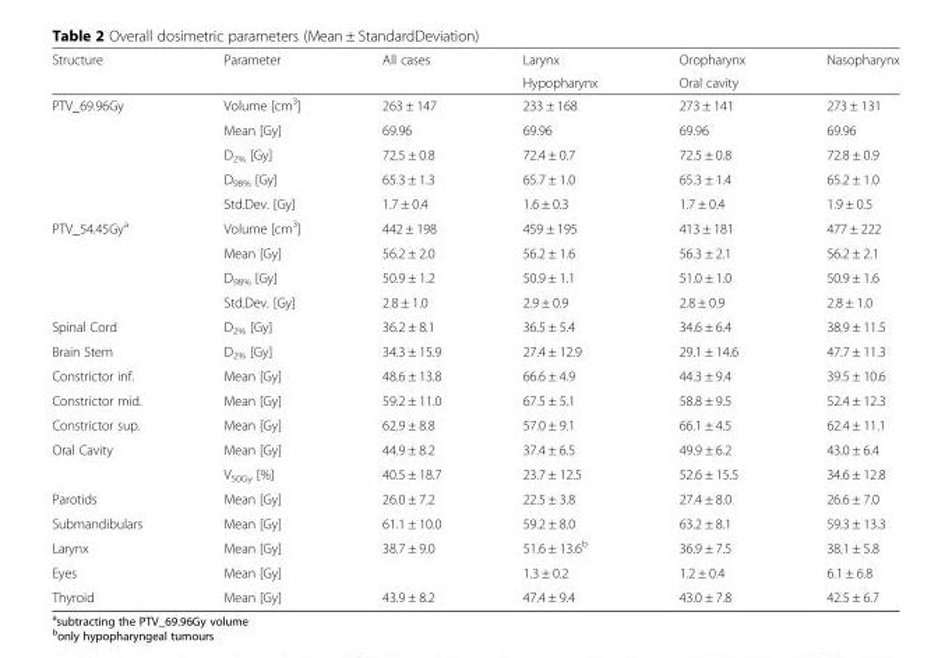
<table><thead><tr><td rowspan="2">Structure</td><td rowspan="2">Parameter</td><td rowspan="2">All cases</td><td rowspan="2">Larynx Hypopharynx</td><td rowspan="2">Oropharynx Oral cavity</td><td rowspan="2">Nasopharynx</td></tr><tr></tr></thead><tbody><tr><td rowspan="5">PTV_69.96Gy</td><td>Volume [cm<sup>3</sup>]</td><td>263 ± 147</td><td>233 ± 168</td><td>273 ± 141</td><td>273 ± 131</td></tr><tr><td>Mean [Gy]</td><td>69.96</td><td>69.96</td><td>69.96</td><td>69.96</td></tr><tr><td>D<sub>2%</sub> [Gy]</td><td>72.5 ± 0.8</td><td>72.4 ± 0.7</td><td>72.5 ± 0.8</td><td>72.8 ± 0.9</td></tr><tr><td>D<sub>98%</sub> [Gy]</td><td>65.3 ± 1.3</td><td>65.7 ± 1.0</td><td>65.3 ± 1.4</td><td>65.2 ± 1.0</td></tr><tr><td>Std.Dev. [Gy]</td><td>1.7 ± 0.4</td><td>1.6 ± 0.3</td><td>1.7 ± 0.4</td><td>1.9 ± 0.5</td></tr><tr><td rowspan="4">PTV_54.45Gy<sup>a</sup></td><td>Volume [cm<sup>3</sup>]</td><td>442 ± 198</td><td>459 ± 195</td><td>413 ± 181</td><td>477 ± 222</td></tr><tr><td>Mean [Gy]</td><td>56.2 ± 2.0</td><td>56.2 ± 1.6</td><td>56.3 ± 2.1</td><td>56.2 ± 2.1</td></tr><tr><td>D<sub>98%</sub> [Gy]</td><td>50.9 ± 1.2</td><td>50.9 ± 1.1</td><td>51.0 ± 1.0</td><td>50.9 ± 1.6</td></tr><tr><td>Std.Dev. [Gy]</td><td>2.8 ± 1.0</td><td>2.9 ± 0.9</td><td>2.8 ± 0.9</td><td>2.8 ± 1.0</td></tr><tr><td>Spinal Cord</td><td>D<sub>2%</sub> [Gy]</td><td>36.2 ± 8.1</td><td>36.5 ± 5.4</td><td>34.6 ± 6.4</td><td>38.9 ± 11.5</td></tr><tr><td>Brain Stem</td><td>D<sub>2%</sub> [Gy]</td><td>34.3 ± 15.9</td><td>27.4 ± 12.9</td><td>29.1 ± 14.6</td><td>47.7 ± 11.3</td></tr><tr><td>Constrictor inf.</td><td>Mean [Gy]</td><td>48.6 ± 13.8</td><td>66.6 ± 4.9</td><td>44.3 ± 9.4</td><td>39.5 ± 10.6</td></tr><tr><td>Constrictor mid.</td><td>Mean [Gy]</td><td>59.2 ± 11.0</td><td>67.5 ± 5.1</td><td>58.8 ± 9.5</td><td>52.4 ± 12.3</td></tr><tr><td>Constrictor sup.</td><td>Mean [Gy]</td><td>62.9 ± 8.8</td><td>57.0 ± 9.1</td><td>66.1 ± 4.5</td><td>62.4 ± 11.1</td></tr><tr><td rowspan="2">Oral Cavity</td><td>Mean [Gy]</td><td>44.9 ± 8.2</td><td>37.4 ± 6.5</td><td>49.9 ± 6.2</td><td>43.0 ± 6.4</td></tr><tr><td>V<sub>50Gy</sub> [%]</td><td>40.5 ± 18.7</td><td>23.7 ± 12.5</td><td>52.6 ± 15.5</td><td>34.6 ± 12.8</td></tr><tr><td>Parotids</td><td>Mean [Gy]</td><td>26.0 ± 7.2</td><td>22.5 ± 3.8</td><td>27.4 ± 8.0</td><td>26.6 ± 7.0</td></tr><tr><td>Submandibulars</td><td>Mean [Gy]</td><td>61.1 ± 10.0</td><td>59.2 ± 8.0</td><td>63.2 ± 8.1</td><td>59.3 ± 13.3</td></tr><tr><td>Larynx</td><td>Mean [Gy]</td><td>38.7 ± 9.0</td><td>51.6 ± 13.6<sup>b</sup></td><td>36.9 ± 7.5</td><td>38.1 ± 5.8</td></tr><tr><td>Eyes</td><td>Mean [Gy]</td><td></td><td>1.3 ± 0.2</td><td>1.2 ± 0.4</td><td>6.1 ± 6.8</td></tr><tr><td>Thyroid</td><td>Mean [Gy]</td><td>43.9 ± 8.2</td><td>47.4 ± 9.4</td><td>43.0 ± 7.8</td><td>42.5 ± 6.7</td></tr></tbody></table>